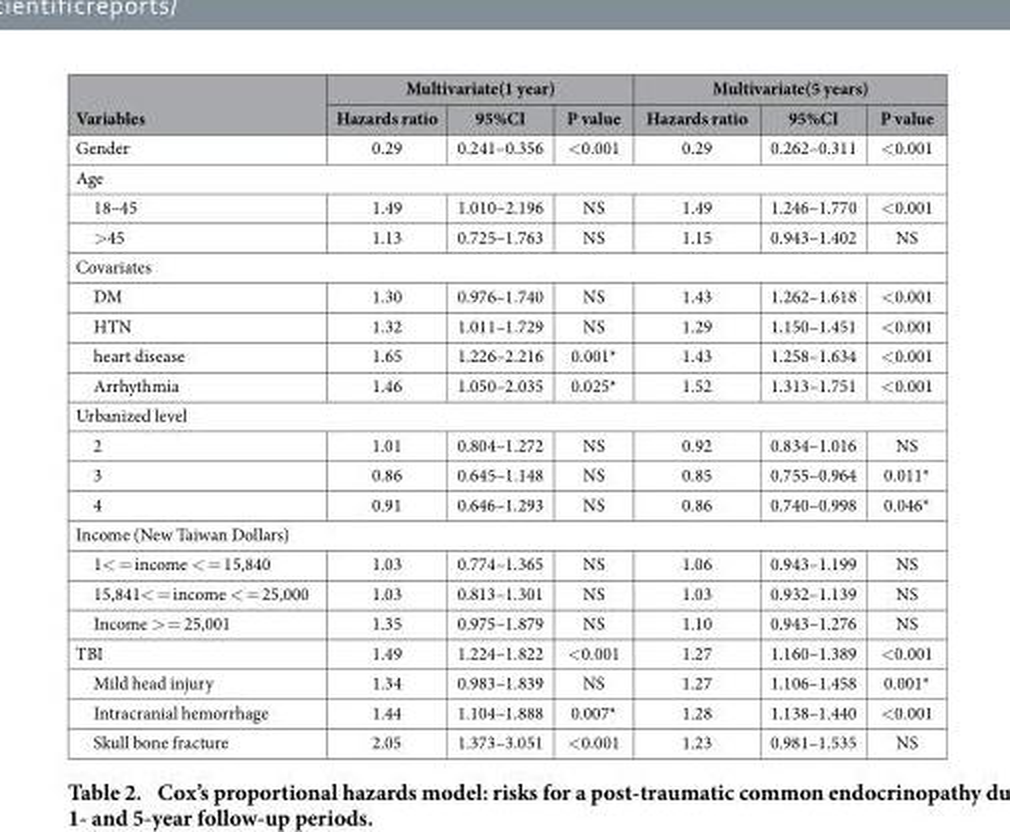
<table><thead><tr><td rowspan="2">Variables</td><td colspan="3">Multivariate(1 year)</td><td colspan="3">Multivariate(5 years)</td></tr><tr><td>Hazards ratio</td><td>95%CI</td><td>P value</td><td>Hazards ratio</td><td>95%CI</td><td>P value</td></tr></thead><tbody><tr><td>Gender</td><td>0.29</td><td>0.241–0.356</td><td>&lt; 0.001</td><td>0.29</td><td>0.262–0.311</td><td>&lt; 0.001</td></tr><tr><td colspan="7">Age</td></tr><tr><td>18–45</td><td>1.49</td><td>1.010–2.196</td><td>NS</td><td>1.49</td><td>1.246–1.770</td><td>&lt; 0.001</td></tr><tr><td>&gt; 45</td><td>1.13</td><td>0.725–1.763</td><td>NS</td><td>1.15</td><td>0.943–1.402</td><td>NS</td></tr><tr><td colspan="7">Covariates</td></tr><tr><td>DM</td><td>1.30</td><td>0.976–1.740</td><td>NS</td><td>1.43</td><td>1.262–1.618</td><td>&lt; 0.001</td></tr><tr><td>HTN</td><td>1.32</td><td>1.011–1.729</td><td>NS</td><td>1.29</td><td>1.150–1.451</td><td>&lt; 0.001</td></tr><tr><td>heart disease</td><td>1.65</td><td>1.226–2.216</td><td>0.001*</td><td>1.43</td><td>1.258–1.634</td><td>&lt; 0.001</td></tr><tr><td>Arrhythmia</td><td>1.46</td><td>1.050–2.035</td><td>0.025*</td><td>1.52</td><td>1.313–1.751</td><td>&lt; 0.001</td></tr><tr><td colspan="7">Urbanized level</td></tr><tr><td>2</td><td>1.01</td><td>0.804–1.272</td><td>NS</td><td>0.92</td><td>0.834–1.016</td><td>NS</td></tr><tr><td>3</td><td>0.86</td><td>0.645–1.148</td><td>NS</td><td>0.85</td><td>0.755–0.964</td><td>0.011*</td></tr><tr><td>4</td><td>0.91</td><td>0.646–1.293</td><td>NS</td><td>0.86</td><td>0.740–0.998</td><td>0.046*</td></tr><tr><td colspan="7">Income (New Taiwan Dollars)</td></tr><tr><td>1&lt; = income &lt; = 15,840</td><td>1.03</td><td>0.774–1.365</td><td>NS</td><td>1.06</td><td>0.943–1.199</td><td>NS</td></tr><tr><td>15,841&lt; = income &lt; = 25,000</td><td>1.03</td><td>0.813–1.301</td><td>NS</td><td>1.03</td><td>0.932–1.139</td><td>NS</td></tr><tr><td>Income &gt; = 25,001</td><td>1.35</td><td>0.975–1.879</td><td>NS</td><td>1.10</td><td>0.943–1.276</td><td>NS</td></tr><tr><td>TBI</td><td>1.49</td><td>1.224–1.822</td><td>&lt; 0.001</td><td>1.27</td><td>1.160–1.389</td><td>&lt; 0.001</td></tr><tr><td>Mild head injury</td><td>1.34</td><td>0.983–1.839</td><td>NS</td><td>1.27</td><td>1.106–1.458</td><td>0.001*</td></tr><tr><td>Intracranial hemorrhage</td><td>1.44</td><td>1.104–1.888</td><td>0.007*</td><td>1.28</td><td>1.138–1.440</td><td>&lt; 0.001</td></tr><tr><td>Skull bone fracture</td><td>2.05</td><td>1.373–3.051</td><td>&lt; 0.001</td><td>1.23</td><td>0.981–1.535</td><td>NS</td></tr></tbody></table>